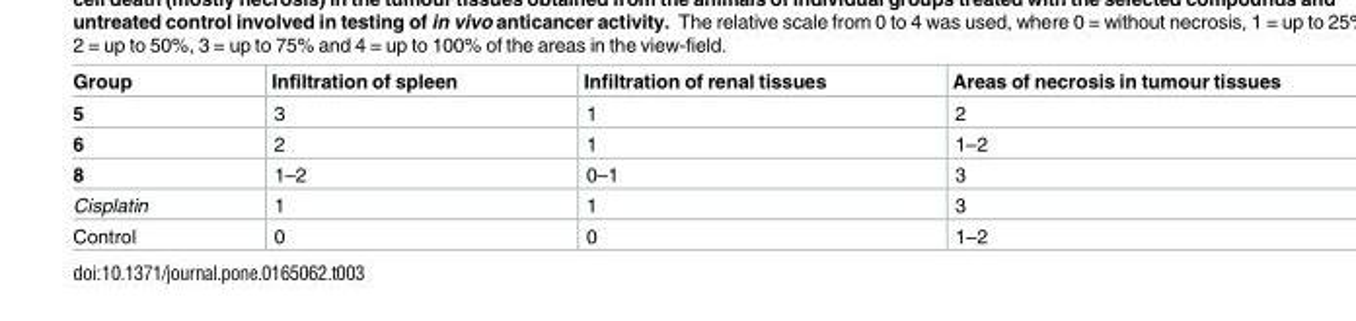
<table><thead><tr><td>Group</td><td>Infiltration of spleen</td><td>Infiltration of renal tissues</td><td>Areas of necrosis in tumour tissues</td></tr></thead><tbody><tr><td>5</td><td>3</td><td>1</td><td>2</td></tr><tr><td>6</td><td>2</td><td>1</td><td>1–2</td></tr><tr><td>8</td><td>1–2</td><td>0–1</td><td>3</td></tr><tr><td>Cisplatin</td><td>1</td><td>1</td><td>3</td></tr><tr><td>Control</td><td>0</td><td>0</td><td>1–2</td></tr></tbody></table>